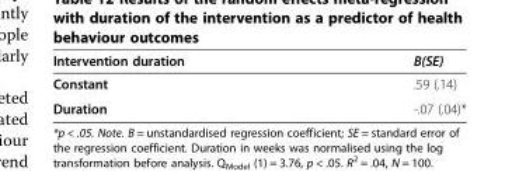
<table><thead><tr><td>Intervention duration</td><td>B(SE)</td></tr></thead><tbody><tr><td>Constant</td><td>.59 (.14)</td></tr><tr><td>Duration</td><td>-.07 (.04)*</td></tr></tbody></table>